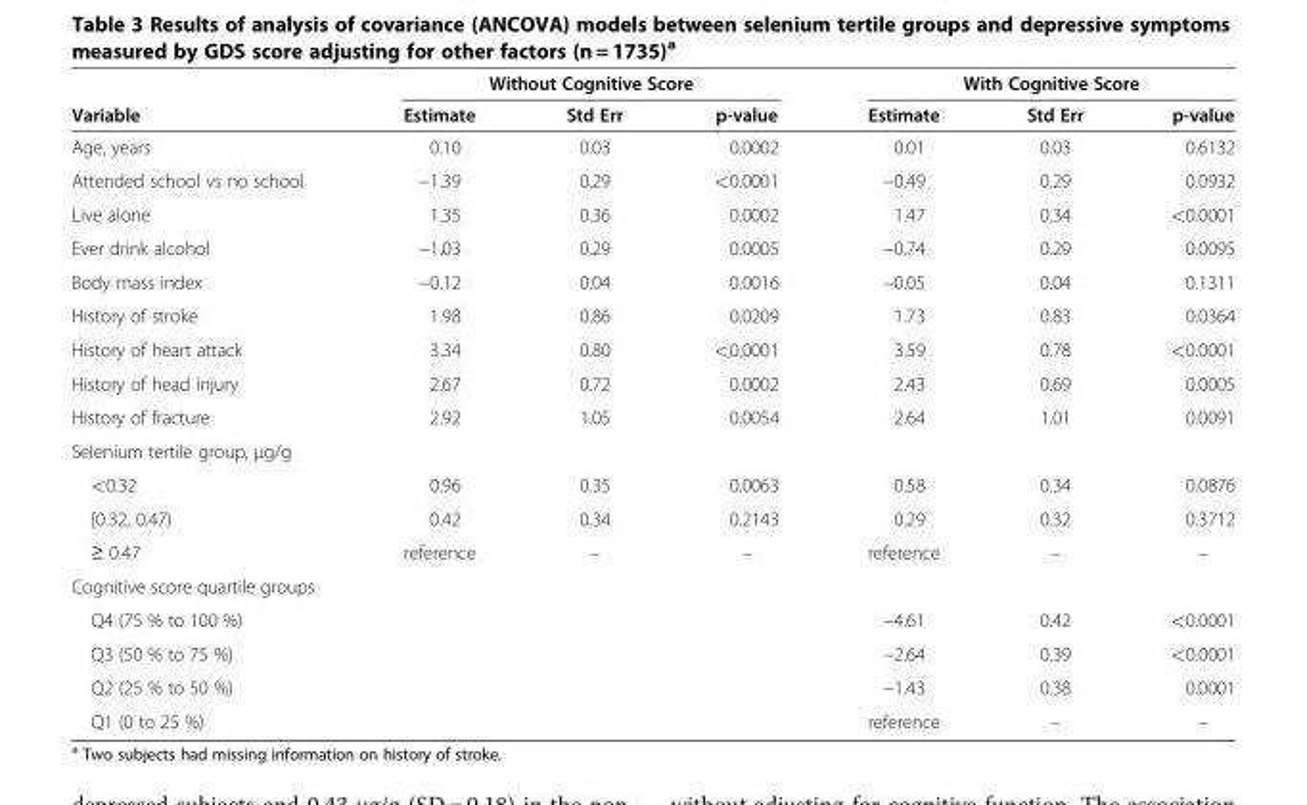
<table><thead><tr><td rowspan="2">Variable</td><td colspan="3">Without Cognitive Score</td><td colspan="3">With Cognitive Score</td></tr><tr><td>Estimate</td><td>Std Err</td><td>p-value</td><td>Estimate</td><td>Std Err</td><td>p-value</td></tr></thead><tbody><tr><td>Age, years</td><td>0.10</td><td>0.03</td><td>0.0002</td><td>0.01</td><td>0.03</td><td>0.6132</td></tr><tr><td>Attended school vs no school</td><td>−1.39</td><td>0.29</td><td>&lt;0.0001</td><td>−0.49</td><td>0.29</td><td>0.0932</td></tr><tr><td>Live alone</td><td>1.35</td><td>0.36</td><td>0.0002</td><td>1.47</td><td>0.34</td><td>&lt;0.0001</td></tr><tr><td>Ever drink alcohol</td><td>−1.03</td><td>0.29</td><td>0.0005</td><td>−0.74</td><td>0.29</td><td>0.0095</td></tr><tr><td>Body mass index</td><td>−0.12</td><td>0.04</td><td>0.0016</td><td>−0.05</td><td>0.04</td><td>0.1311</td></tr><tr><td>History of stroke</td><td>1.98</td><td>0.86</td><td>0.0209</td><td>1.73</td><td>0.83</td><td>0.0364</td></tr><tr><td>History of heart attack</td><td>3.34</td><td>0.80</td><td>&lt;0.0001</td><td>3.59</td><td>0.78</td><td>&lt;0.0001</td></tr><tr><td>History of head injury</td><td>2.67</td><td>0.72</td><td>0.0002</td><td>2.43</td><td>0.69</td><td>0.0005</td></tr><tr><td>History of fracture</td><td>2.92</td><td>1.05</td><td>0.0054</td><td>2.64</td><td>1.01</td><td>0.0091</td></tr><tr><td colspan="7">Selenium tertile group, μg/g</td></tr><tr><td>&lt;0.32</td><td>0.96</td><td>0.35</td><td>0.0063</td><td>0.58</td><td>0.34</td><td>0.0876</td></tr><tr><td>[0.32, 0.47)</td><td>0.42</td><td>0.34</td><td>0.2143</td><td>0.29</td><td>0.32</td><td>0.3712</td></tr><tr><td>≥ 0.47</td><td>reference</td><td>–</td><td>–</td><td>reference</td><td>–</td><td>–</td></tr><tr><td colspan="7">Cognitive score quartile groups</td></tr><tr><td>Q4 (75 % to 100 %)</td><td></td><td></td><td></td><td>−4.61</td><td>0.42</td><td>&lt;0.0001</td></tr><tr><td>Q3 (50 % to 75 %)</td><td></td><td></td><td></td><td>−2.64</td><td>0.39</td><td>&lt;0.0001</td></tr><tr><td>Q2 (25 % to 50 %)</td><td></td><td></td><td></td><td>−1.43</td><td>0.38</td><td>0.0001</td></tr><tr><td>Q1 (0 to 25 %)</td><td></td><td></td><td></td><td>reference</td><td>–</td><td>–</td></tr></tbody></table>